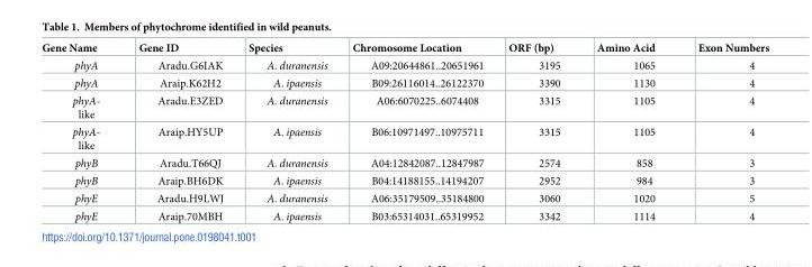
<table><thead><tr><td>Gene Name</td><td>Gene ID</td><td>Species</td><td>Chromosome Location</td><td>ORF (bp)</td><td>Amino Acid</td><td>Exon Numbers</td></tr></thead><tbody><tr><td>phyA</td><td>Aradu.G6IAK</td><td>A. duranensis</td><td>A09:20644861..20651961</td><td>3195</td><td>1065</td><td>4</td></tr><tr><td>phyA</td><td>Araip.K62H2</td><td>A. ipaensis</td><td>B09:26116014..26122370</td><td>3390</td><td>1130</td><td>4</td></tr><tr><td>phyA- like</td><td>Aradu.E3ZED</td><td>A. duranensis</td><td>A06:6070225..6074408</td><td>3315</td><td>1105</td><td>4</td></tr><tr><td>phyA- like</td><td>Araip.HY5UP</td><td>A. ipaensis</td><td>B06:10971497..10975711</td><td>3315</td><td>1105</td><td>4</td></tr><tr><td>phyB</td><td>Aradu.T66QJ</td><td>A. duranensis</td><td>A04:12842087..12847987</td><td>2574</td><td>858</td><td>3</td></tr><tr><td>phyB</td><td>Araip.BH6DK</td><td>A. ipaensis</td><td>B04:14188155..14194207</td><td>2952</td><td>984</td><td>3</td></tr><tr><td>phyE</td><td>Aradu.H9LWJ</td><td>A. duranensis</td><td>A06:35179509..35184800</td><td>3060</td><td>1020</td><td>5</td></tr><tr><td>phyE</td><td>Araip.70MBH</td><td>A. ipaensis</td><td>B03:65314031..65319952</td><td>3342</td><td>1114</td><td>4</td></tr></tbody></table>